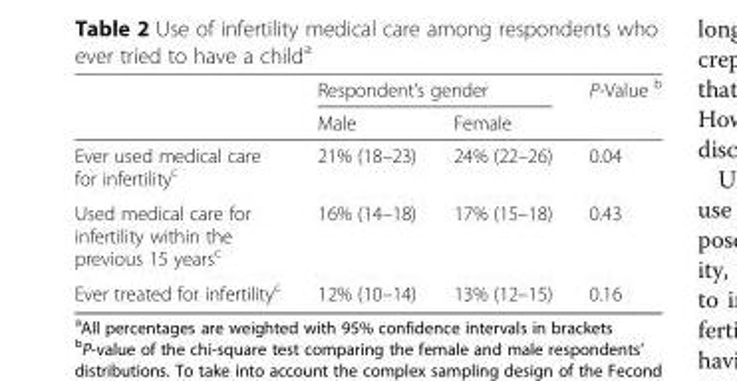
<table><thead><tr><td rowspan="2"></td><td colspan="2">Respondent’s gender</td><td rowspan="2">P-Value <sup>b</sup></td></tr><tr><td>Male</td><td>Female</td></tr></thead><tbody><tr><td>Ever used medical care for infertility<sup>c</sup></td><td>21% (18–23)</td><td>24% (22–26)</td><td>0.04</td></tr><tr><td>Used medical care for infertility within the previous 15 years<sup>c</sup></td><td>16% (14–18)</td><td>17% (15–18)</td><td>0.43</td></tr><tr><td>Ever treated for infertility<sup>c</sup></td><td>12% (10–14)</td><td>13% (12–15)</td><td>0.16</td></tr></tbody></table>